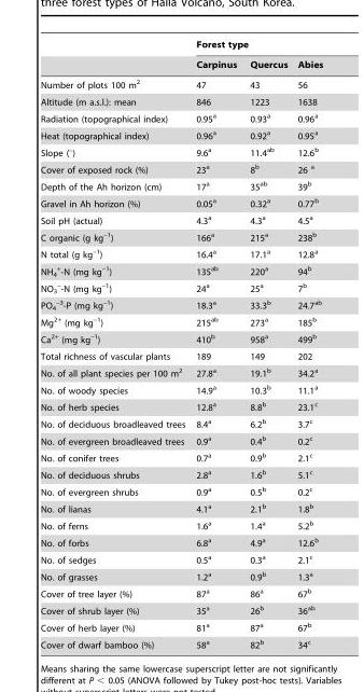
<table><thead><tr><td rowspan="2"></td><td colspan="3">Forest type</td></tr><tr><td>Carpinus</td><td>Quercus</td><td>Abies</td></tr></thead><tbody><tr><td>Number of plots 100 m<sup>2</sup></td><td>47</td><td>43</td><td>56</td></tr><tr><td>Altitude (m a.s.l.): mean</td><td>846</td><td>1223</td><td>1638</td></tr><tr><td>Radiation (topographical index)</td><td>0.95<sup>a</sup></td><td>0.93<sup>a</sup></td><td>0.96<sup>a</sup></td></tr><tr><td>Heat (topographical index)</td><td>0.96<sup>a</sup></td><td>0.92<sup>a</sup></td><td>0.95<sup>a</sup></td></tr><tr><td>Slope (°)</td><td>9.6<sup>a</sup></td><td>11.4<sup>ab</sup></td><td>12.6<sup>b</sup></td></tr><tr><td>Cover of exposed rock (%)</td><td>23<sup>a</sup></td><td>8<sup>b</sup></td><td>26 <sup>a</sup></td></tr><tr><td>Depth of the Ah horizon (cm)</td><td>17<sup>a</sup></td><td>35<sup>ab</sup></td><td>39<sup>b</sup></td></tr><tr><td>Gravel in Ah horizon (%)</td><td>0.05<sup>a</sup></td><td>0.32<sup>a</sup></td><td>0.77<sup>b</sup></td></tr><tr><td>Soil pH (actual)</td><td>4.3<sup>a</sup></td><td>4.3<sup>a</sup></td><td>4.5<sup>a</sup></td></tr><tr><td>C organic (g kg<sup>–1</sup>)</td><td>166<sup>a</sup></td><td>215<sup>a</sup></td><td>238<sup>b</sup></td></tr><tr><td>N total (g kg<sup>–1</sup>)</td><td>16.4<sup>a</sup></td><td>17.1<sup>a</sup></td><td>12.8<sup>a</sup></td></tr><tr><td>NH<sub>4</sub> <sup>+</sup>-N (mg kg<sup>–1</sup>)</td><td>135<sup>ab</sup></td><td>220<sup>a</sup></td><td>94<sup>b</sup></td></tr><tr><td>NO<sub>3</sub> <sup>–</sup>-N (mg kg<sup>–1</sup>)</td><td>24<sup>a</sup></td><td>25<sup>a</sup></td><td>7<sup>b</sup></td></tr><tr><td>PO<sub>4</sub> <sup>–3</sup>-P (mg kg<sup>–1</sup>)</td><td>18.3<sup>a</sup></td><td>33.3<sup>b</sup></td><td>24.7<sup>ab</sup></td></tr><tr><td>Mg<sup>2+</sup> (mg kg<sup>–1</sup>)</td><td>215<sup>ab</sup></td><td>273<sup>a</sup></td><td>185<sup>b</sup></td></tr><tr><td>Ca<sup>2+</sup> (mg kg<sup>–1</sup>)</td><td>410<sup>b</sup></td><td>958<sup>a</sup></td><td>499<sup>b</sup></td></tr><tr><td>Total richness of vascular plants</td><td>189</td><td>149</td><td>202</td></tr><tr><td>No. of all plant species per 100 m<sup>2</sup></td><td>27.8<sup>a</sup></td><td>19.1<sup>b</sup></td><td>34.2<sup>a</sup></td></tr><tr><td>No. of woody species</td><td>14.9<sup>a</sup></td><td>10.3<sup>b</sup></td><td>11.1<sup>a</sup></td></tr><tr><td>No. of herb species</td><td>12.8<sup>a</sup></td><td>8.8<sup>b</sup></td><td>23.1<sup>c</sup></td></tr><tr><td>No. of deciduous broadleaved trees</td><td>8.4<sup>a</sup></td><td>6.2<sup>b</sup></td><td>3.7<sup>c</sup></td></tr><tr><td>No. of evergreen broadleaved trees</td><td>0.9<sup>a</sup></td><td>0.4<sup>b</sup></td><td>0.2<sup>c</sup></td></tr><tr><td>No. of conifer trees</td><td>0.7<sup>a</sup></td><td>0.9<sup>b</sup></td><td>2.1<sup>c</sup></td></tr><tr><td>No. of deciduous shrubs</td><td>2.8<sup>a</sup></td><td>1.6<sup>b</sup></td><td>5.1<sup>c</sup></td></tr><tr><td>No. of evergreen shrubs</td><td>0.9<sup>a</sup></td><td>0.5<sup>b</sup></td><td>0.2<sup>c</sup></td></tr><tr><td>No. of lianas</td><td>4.1<sup>a</sup></td><td>2.1<sup>b</sup></td><td>1.8<sup>b</sup></td></tr><tr><td>No. of ferns</td><td>1.6<sup>a</sup></td><td>1.4<sup>a</sup></td><td>5.2<sup>b</sup></td></tr><tr><td>No. of forbs</td><td>6.8<sup>a</sup></td><td>4.9<sup>a</sup></td><td>12.6<sup>b</sup></td></tr><tr><td>No. of sedges</td><td>0.5<sup>a</sup></td><td>0.3<sup>a</sup></td><td>2.1<sup>c</sup></td></tr><tr><td>No. of grasses</td><td>1.2<sup>a</sup></td><td>0.9<sup>b</sup></td><td>1.3<sup>a</sup></td></tr><tr><td>Cover of tree layer (%)</td><td>87<sup>a</sup></td><td>86<sup>a</sup></td><td>67<sup>b</sup></td></tr><tr><td>Cover of shrub layer (%)</td><td>35<sup>a</sup></td><td>26<sup>b</sup></td><td>36<sup>ab</sup></td></tr><tr><td>Cover of herb layer (%)</td><td>81<sup>a</sup></td><td>87<sup>a</sup></td><td>67<sup>b</sup></td></tr><tr><td>Cover of dwarf bamboo (%)</td><td>58<sup>a</sup></td><td>82<sup>b</sup></td><td>34<sup>c</sup></td></tr></tbody></table>